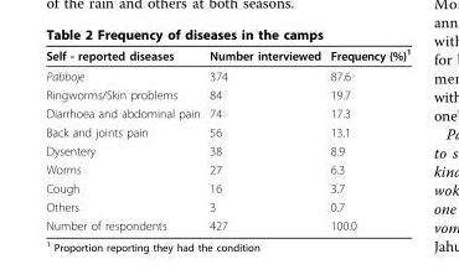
<table><thead><tr><td>Self - reported diseases</td><td>Number interviewed</td><td>Frequency (%)<sup>1</sup></td></tr></thead><tbody><tr><td>Pabboje</td><td>374</td><td>87.6</td></tr><tr><td>Ringworms/Skin problems</td><td>84</td><td>19.7</td></tr><tr><td>Diarrhoea and abdominal pain</td><td>74</td><td>17.3</td></tr><tr><td>Back and joints pain</td><td>56</td><td>13.1</td></tr><tr><td>Dysentery</td><td>38</td><td>8.9</td></tr><tr><td>Worms</td><td>27</td><td>6.3</td></tr><tr><td>Cough</td><td>16</td><td>3.7</td></tr><tr><td>Others</td><td>3</td><td>0.7</td></tr><tr><td>Number of respondents</td><td>427</td><td>100.0</td></tr></tbody></table>